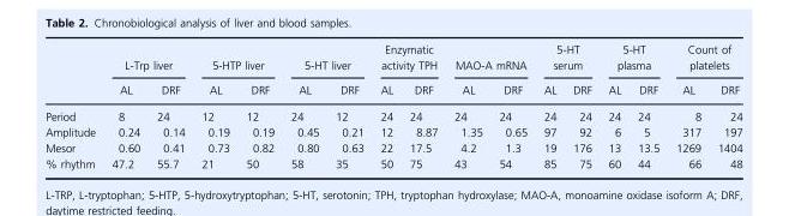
<table><thead><tr><td rowspan="2"></td><td colspan="2">L-Trp liver</td><td colspan="2">5-HTP liver</td><td colspan="2">5-HT liver</td><td colspan="2">Enzymatic activity TPH</td><td colspan="2">MAO-A mRNA</td><td colspan="2">5-HT serum</td><td colspan="2">5-HT plasma</td><td colspan="2">Count of platelets</td></tr><tr><td>AL</td><td>DRF</td><td>AL</td><td>DRF</td><td>AL</td><td>DRF</td><td>AL</td><td>DRF</td><td>AL</td><td>DRF</td><td>AL</td><td>DRF</td><td>AL</td><td>DRF</td><td>AL</td><td>DRF</td></tr></thead><tbody><tr><td>Period</td><td>8</td><td>24</td><td>12</td><td>12</td><td>24</td><td>12</td><td>24</td><td>24</td><td>24</td><td>24</td><td>24</td><td>24</td><td>24</td><td>24</td><td>8</td><td>24</td></tr><tr><td>Amplitude</td><td>0.24</td><td>0.14</td><td>0.19</td><td>0.19</td><td>0.45</td><td>0.21</td><td>12</td><td>8.87</td><td>1.35</td><td>0.65</td><td>97</td><td>92</td><td>6</td><td>5</td><td>317</td><td>197</td></tr><tr><td>Mesor</td><td>0.60</td><td>0.41</td><td>0.73</td><td>0.82</td><td>0.80</td><td>0.63</td><td>22</td><td>17.5</td><td>4.2</td><td>1.3</td><td>19</td><td>176</td><td>13</td><td>13.5</td><td>1269</td><td>1404</td></tr><tr><td>% rhythm</td><td>47.2</td><td>55.7</td><td>21</td><td>50</td><td>58</td><td>35</td><td>50</td><td>75</td><td>43</td><td>54</td><td>85</td><td>75</td><td>60</td><td>44</td><td>66</td><td>48</td></tr></tbody></table>